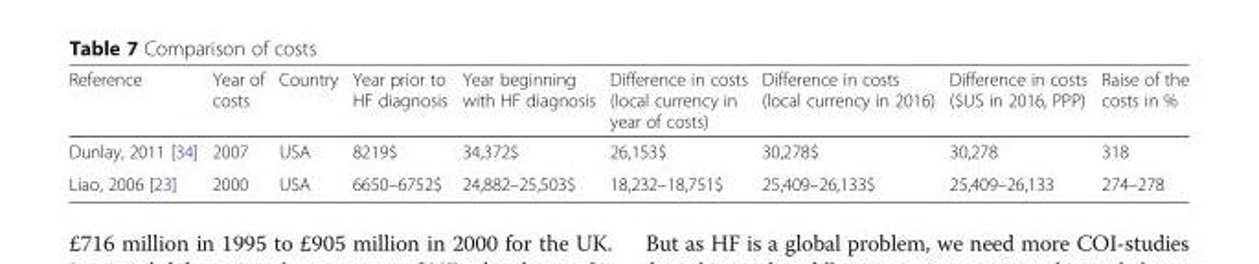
<table><thead><tr><td>Reference</td><td>Year of costs</td><td>Country</td><td>Year prior to HF diagnosis</td><td>Year beginning with HF diagnosis</td><td>Difference in costs (local currency in year of costs)</td><td>Difference in costs (local currency in 2016)</td><td>Difference in costs ($US in 2016, PPP)</td><td>Raise of the costs in %</td></tr></thead><tbody><tr><td>Dunlay, 2011 [34]</td><td>2007</td><td>USA</td><td>8219$</td><td>34,372$</td><td>26,153$</td><td>30,278$</td><td>30,278</td><td>318</td></tr><tr><td>Liao, 2006 [23]</td><td>2000</td><td>USA</td><td>6650–6752$</td><td>24,882–25,503$</td><td>18,232–18,751$</td><td>25,409–26,133$</td><td>25,409–26,133</td><td>274–278</td></tr></tbody></table>